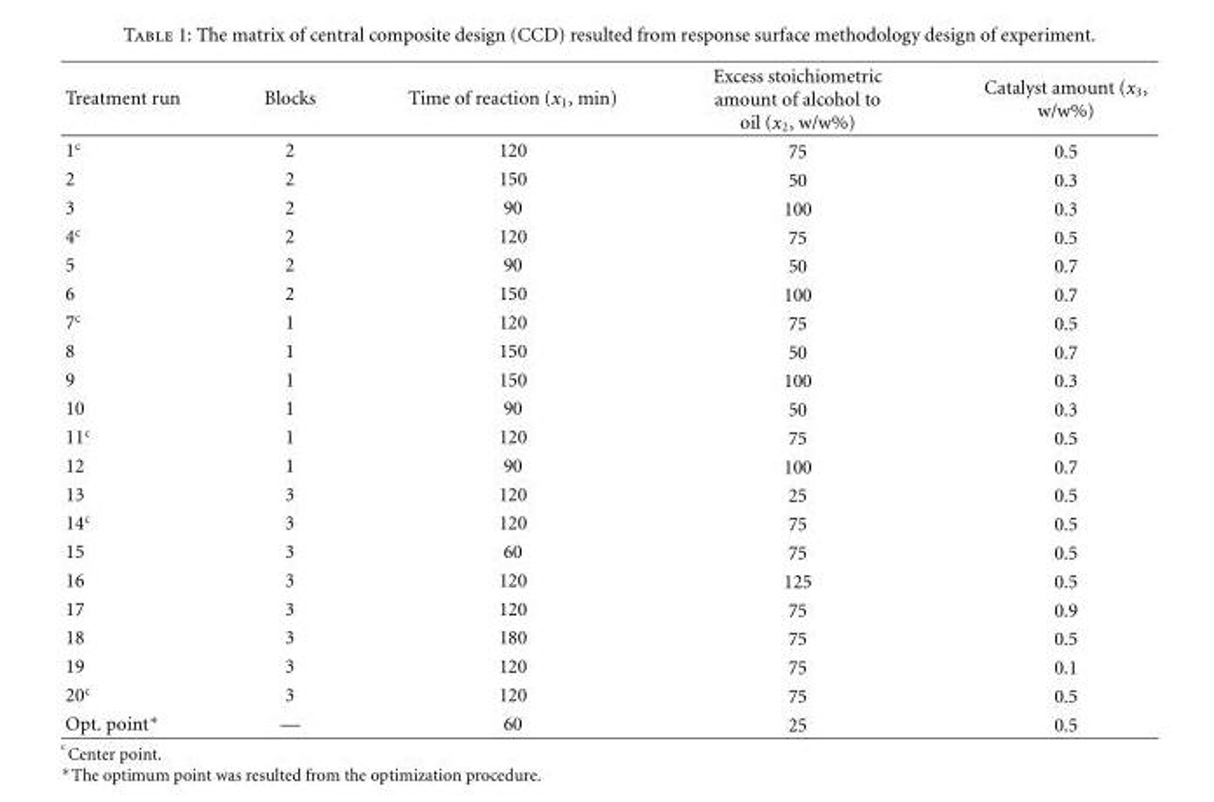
<table><thead><tr><td>Treatment run</td><td>Blocks</td><td>Time of reaction (x<sub>1</sub>, min)</td><td>Excess stoichiometric amount of alcohol to oil (x<sub>2</sub>, w/w%)</td><td>Catalyst amount (x<sub>3</sub>, w/w%)</td></tr></thead><tbody><tr><td>1<sup>c</sup></td><td>2</td><td>120</td><td>75</td><td>0.5</td></tr><tr><td>2</td><td>2</td><td>150</td><td>50</td><td>0.3</td></tr><tr><td>3</td><td>2</td><td>90</td><td>100</td><td>0.3</td></tr><tr><td>4<sup>c</sup></td><td>2</td><td>120</td><td>75</td><td>0.5</td></tr><tr><td>5</td><td>2</td><td>90</td><td>50</td><td>0.7</td></tr><tr><td>6</td><td>2</td><td>150</td><td>100</td><td>0.7</td></tr><tr><td>7<sup>c</sup></td><td>1</td><td>120</td><td>75</td><td>0.5</td></tr><tr><td>8</td><td>1</td><td>150</td><td>50</td><td>0.7</td></tr><tr><td>9</td><td>1</td><td>150</td><td>100</td><td>0.3</td></tr><tr><td>10</td><td>1</td><td>90</td><td>50</td><td>0.3</td></tr><tr><td>11<sup>c</sup></td><td>1</td><td>120</td><td>75</td><td>0.5</td></tr><tr><td>12</td><td>1</td><td>90</td><td>100</td><td>0.7</td></tr><tr><td>13</td><td>3</td><td>120</td><td>25</td><td>0.5</td></tr><tr><td>14<sup>c</sup></td><td>3</td><td>120</td><td>75</td><td>0.5</td></tr><tr><td>15</td><td>3</td><td>60</td><td>75</td><td>0.5</td></tr><tr><td>16</td><td>3</td><td>120</td><td>125</td><td>0.5</td></tr><tr><td>17</td><td>3</td><td>120</td><td>75</td><td>0.9</td></tr><tr><td>18</td><td>3</td><td>180</td><td>75</td><td>0.5</td></tr><tr><td>19</td><td>3</td><td>120</td><td>75</td><td>0.1</td></tr><tr><td>20<sup>c</sup></td><td>3</td><td>120</td><td>75</td><td>0.5</td></tr><tr><td>Opt. point∗</td><td>—</td><td>60</td><td>25</td><td>0.5</td></tr></tbody></table>